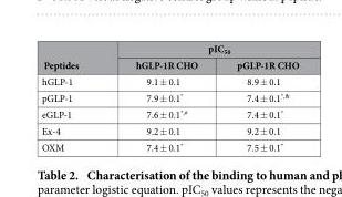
<table><thead><tr><td rowspan="2">Peptides</td><td colspan="2">pIC<sub>50</sub></td></tr><tr><td>hGLP-1R CHO</td><td>pGLP-1R CHO</td></tr></thead><tbody><tr><td>hGLP-1</td><td>9.1 ± 0.1</td><td>8.9 ± 0.1</td></tr><tr><td>pGLP-1</td><td>7.9 ± 0.1*</td><td>7.4 ± 0.1<sup>*,&amp;</sup></td></tr><tr><td>eGLP-1</td><td>7.6 ± 0.1<sup>*,#</sup></td><td>7.4 ± 0.1*</td></tr><tr><td>Ex-4</td><td>9.2 ± 0.1</td><td>9.2 ± 0.1</td></tr><tr><td>OXM</td><td>7.4 ± 0.1*</td><td>7.5 ± 0.1*</td></tr></tbody></table>